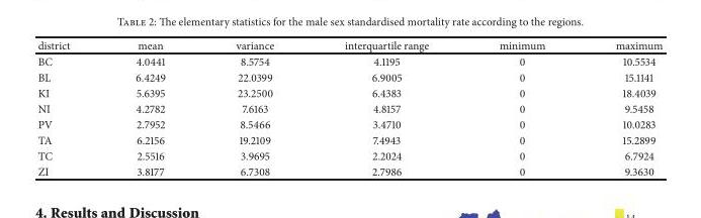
<table><thead><tr><td>district</td><td>mean</td><td>variance</td><td>interquartile range</td><td>minimum</td><td>maximum</td></tr></thead><tbody><tr><td>BC</td><td>4.0441</td><td>8.5754</td><td>4.1195</td><td>0</td><td>10.5534</td></tr><tr><td>BL</td><td>6.4249</td><td>22.0399</td><td>6.9005</td><td>0</td><td>15.1141</td></tr><tr><td>KI</td><td>5.6395</td><td>23.2500</td><td>6.4383</td><td>0</td><td>18.4039</td></tr><tr><td>NI</td><td>4.2782</td><td>7.6163</td><td>4.8157</td><td>0</td><td>9.5458</td></tr><tr><td>PV</td><td>2.7952</td><td>8.5466</td><td>3.4710</td><td>0</td><td>10.0283</td></tr><tr><td>TA</td><td>6.2156</td><td>19.2109</td><td>7.4943</td><td>0</td><td>15.2899</td></tr><tr><td>TC</td><td>2.5516</td><td>3.9695</td><td>2.2024</td><td>0</td><td>6.7924</td></tr><tr><td>ZI</td><td>3.8177</td><td>6.7308</td><td>2.7986</td><td>0</td><td>9.3630</td></tr></tbody></table>